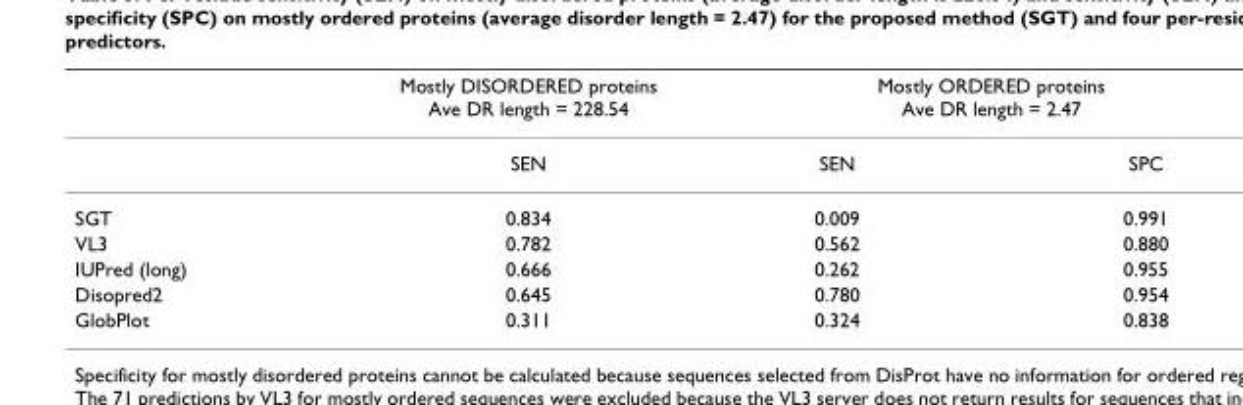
<table><thead><tr><td rowspan="2"></td><td rowspan="2">Mostly DISORDERED proteins Ave DR length = 228.54 SEN</td><td colspan="2">Mostly ORDERED proteins Ave DR length = 2.47</td></tr><tr><td>SEN</td><td>SPC</td></tr></thead><tbody><tr><td>SGT</td><td>0.834</td><td>0.009</td><td>0.991</td></tr><tr><td>VL3</td><td>0.782</td><td>0.562</td><td>0.880</td></tr><tr><td>IUPred (long)</td><td>0.666</td><td>0.262</td><td>0.955</td></tr><tr><td>Disopred2</td><td>0.645</td><td>0.780</td><td>0.954</td></tr><tr><td>GlobPlot</td><td>0.311</td><td>0.324</td><td>0.838</td></tr></tbody></table>